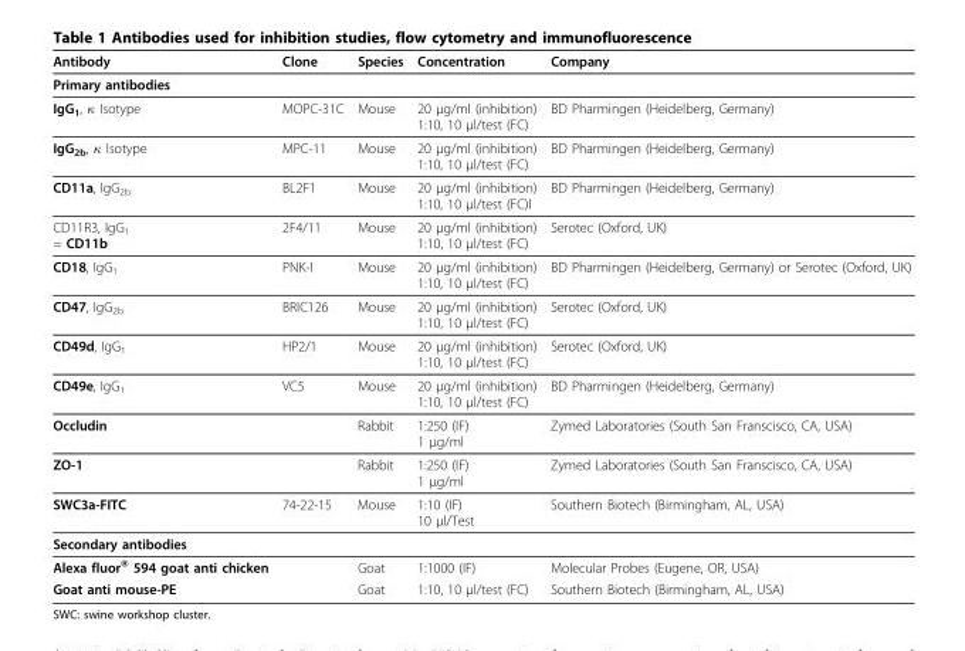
<table><thead><tr><td>Antibody</td><td>Clone</td><td>Species</td><td>Concentration</td><td>Company</td></tr></thead><tbody><tr><td colspan="5">Primary antibodies</td></tr><tr><td>IgG<sub>1</sub>, κ Isotype</td><td>MOPC-31C</td><td>Mouse</td><td>20 μg/ml (inhibition) 1:10, 10 μl/test (FC)</td><td>BD Pharmingen (Heidelberg, Germany)</td></tr><tr><td>IgG<sub>2b</sub>, κ Isotype</td><td>MPC-11</td><td>Mouse</td><td>20 μg/ml (inhibition) 1:10, 10 μl/test (FC)</td><td>BD Pharmingen (Heidelberg, Germany)</td></tr><tr><td>CD11a, IgG<sub>2b</sub></td><td>BL2F1</td><td>Mouse</td><td>20 μg/ml (inhibition) 1:10, 10 μl/test (FC)l</td><td>BD Pharmingen (Heidelberg, Germany)</td></tr><tr><td>CD11R3, IgG<sub>1</sub> = CD11b</td><td>2F4/11</td><td>Mouse</td><td>20 μg/ml (inhibition) 1:10, 10 μl/test (FC)</td><td>Serotec (Oxford, UK)</td></tr><tr><td>CD18, IgG<sub>1</sub></td><td>PNK-I</td><td>Mouse</td><td>20 μg/ml (inhibition) 1:10, 10 μl/test (FC)</td><td>BD Pharmingen (Heidelberg, Germany) or Serotec (Oxford, UK)</td></tr><tr><td>CD47, IgG<sub>2b</sub></td><td>BRIC126</td><td>Mouse</td><td>20 μg/ml (inhibition) 1:10, 10 μl/test (FC)</td><td>Serotec (Oxford, UK)</td></tr><tr><td>CD49d, IgG<sub>1</sub></td><td>HP2/1</td><td>Mouse</td><td>20 μg/ml (inhibition) 1:10, 10 μl/test (FC)</td><td>Serotec (Oxford, UK)</td></tr><tr><td>CD49e, IgG<sub>1</sub></td><td>VC5</td><td>Mouse</td><td>20 μg/ml (inhibition) 1:10, 10 μl/test (FC)</td><td>BD Pharmingen (Heidelberg, Germany)</td></tr><tr><td>Occludin</td><td></td><td>Rabbit</td><td>1:250 (IF) 1 μg/ml</td><td>Zymed Laboratories (South San Franscisco, CA, USA)</td></tr><tr><td>ZO-1</td><td></td><td>Rabbit</td><td>1:250 (IF) 1 μg/ml</td><td>Zymed Laboratories (South San Franscisco, CA, USA)</td></tr><tr><td>SWC3a-FITC</td><td>74-22-15</td><td>Mouse</td><td>1:10 (IF) 10 μl/Test</td><td>Southern Biotech (Birmingham, AL, USA)</td></tr><tr><td colspan="5">Secondary antibodies</td></tr><tr><td>Alexa fluor<sup>®</sup> 594 goat anti chicken</td><td></td><td>Goat</td><td>1:1000 (IF)</td><td>Molecular Probes (Eugene, OR, USA)</td></tr><tr><td>Goat anti mouse-PE</td><td></td><td>Goat</td><td>1:10, 10 μl/test (FC)</td><td>Southern Biotech (Birmingham, AL, USA)</td></tr></tbody></table>